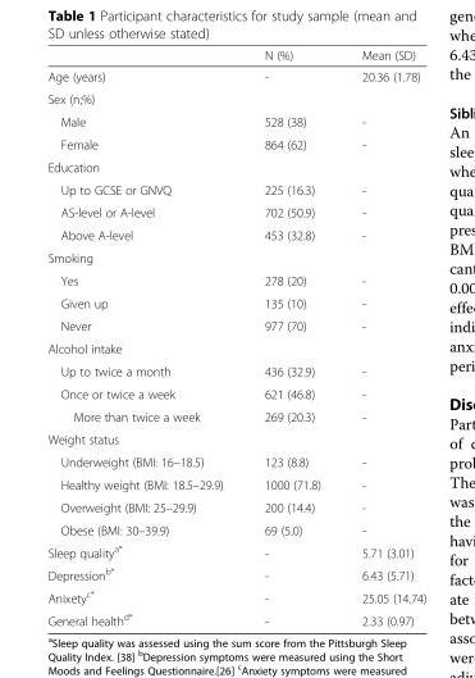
<table><thead><tr><td></td><td>N (%)</td><td>Mean (SD)</td></tr></thead><tbody><tr><td>Age (years)</td><td>-</td><td>20.36 (1.78)</td></tr><tr><td colspan="3">Sex (n;%)</td></tr><tr><td>Male</td><td>528 (38)</td><td>-</td></tr><tr><td>Female</td><td>864 (62)</td><td>-</td></tr><tr><td colspan="3">Education</td></tr><tr><td>Up to GCSE or GNVQ</td><td>225 (16.3)</td><td>-</td></tr><tr><td>AS-level or A-level</td><td>702 (50.9)</td><td>-</td></tr><tr><td>Above A-level</td><td>453 (32.8)</td><td>-</td></tr><tr><td colspan="3">Smoking</td></tr><tr><td>Yes</td><td>278 (20)</td><td>-</td></tr><tr><td>Given up</td><td>135 (10)</td><td>-</td></tr><tr><td>Never</td><td>977 (70)</td><td>-</td></tr><tr><td colspan="3">Alcohol intake</td></tr><tr><td>Up to twice a month</td><td>436 (32.9)</td><td>-</td></tr><tr><td>Once or twice a week</td><td>621 (46.8)</td><td>-</td></tr><tr><td>More than twice a week</td><td>269 (20.3)</td><td>-</td></tr><tr><td colspan="3">Weight status</td></tr><tr><td>Underweight (BMI: 16–18.5)</td><td>123 (8.8)</td><td>-</td></tr><tr><td>Healthy weight (BMI: 18.5–29.9)</td><td>1000 (71.8)</td><td>-</td></tr><tr><td>Overweight (BMI: 25–29.9)</td><td>200 (14.4)</td><td>-</td></tr><tr><td>Obese (BMI: 30–39.9)</td><td>69 (5.0)</td><td>-</td></tr><tr><td>Sleep quality<sup>a*</sup></td><td>-</td><td>5.71 (3.01)</td></tr><tr><td>Depression<sup>b*</sup></td><td>-</td><td>6.43 (5.71)</td></tr><tr><td>Anixety<sup>c*</sup></td><td>-</td><td>25.05 (14.74)</td></tr><tr><td>General health<sup>d*</sup></td><td>-</td><td>2.33 (0.97)</td></tr></tbody></table>